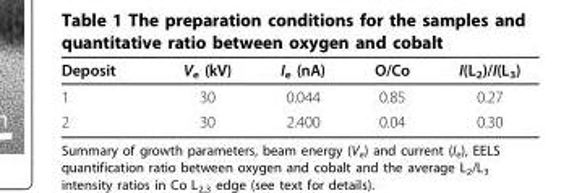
<table><thead><tr><td>Deposit</td><td>V<sub>e</sub> (kV)</td><td>I<sub>e</sub> (nA)</td><td>O/Co</td><td>I(L<sub>2</sub>)/I(L<sub>3</sub>)</td></tr></thead><tbody><tr><td>1</td><td>30</td><td>0.044</td><td>0.85</td><td>0.27</td></tr><tr><td>2</td><td>30</td><td>2.400</td><td>0.04</td><td>0.30</td></tr></tbody></table>